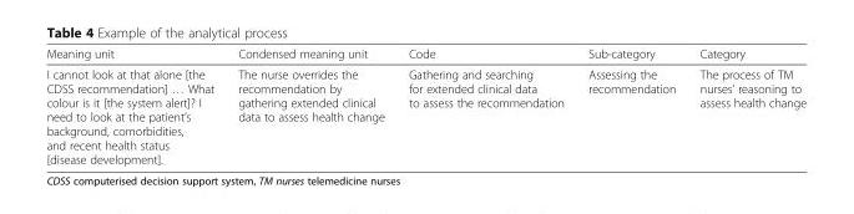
<table><thead><tr><td>Meaning unit</td><td>Condensed meaning unit</td><td>Code</td><td>Sub-category</td><td>Category</td></tr></thead><tbody><tr><td>I cannot look at that alone [the CDSS recommendation] … What colour is it [the system alert]? I need to look at the patient’s background, comorbidities, and recent health status [disease development].</td><td>The nurse overrides the recommendation by gathering extended clinical data to assess health change</td><td>Gathering and searching for extended clinical data to assess the recommendation</td><td>Assessing the recommendation</td><td>The process of TM nurses’ reasoning to assess health change</td></tr></tbody></table>